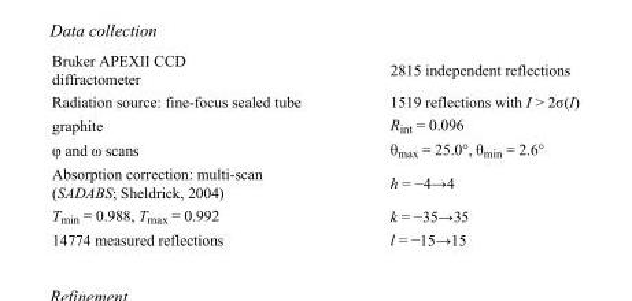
<table><tbody><tr><td>Bruker APEXII CCD diffractometer</td><td>2815 independent reflections</td></tr><tr><td>Radiation source: fine-focus sealed tube</td><td>1519 reflections with I &gt; 2σ(I)</td></tr><tr><td>graphite</td><td>R<sub>int</sub> = 0.096</td></tr><tr><td>φ and ω scans</td><td>θ<sub>max</sub> = 25.0°, θ<sub>min</sub> = 2.6°</td></tr><tr><td>Absorption correction: multi-scan (SADABS; Sheldrick, 2004)</td><td>h = −4→4</td></tr><tr><td>T<sub>min</sub> = 0.988, T<sub>max</sub> = 0.992</td><td>k = −35→35</td></tr><tr><td>14774 measured reflections</td><td>l = −15→15</td></tr></tbody></table>